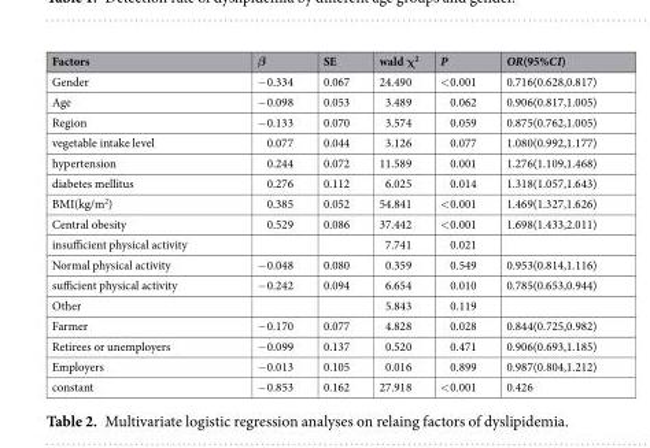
<table><thead><tr><td>Factors</td><td>β</td><td>SE</td><td>wald χ<sup>2</sup></td><td>P</td><td>OR(95%CI)</td></tr></thead><tbody><tr><td>Gender</td><td>−0.334</td><td>0.067</td><td>24.490</td><td>&lt;0.001</td><td>0.716(0.628,0.817)</td></tr><tr><td>Age</td><td>−0.098</td><td>0.053</td><td>3.489</td><td>0.062</td><td>0.906(0.817,1.005)</td></tr><tr><td>Region</td><td>−0.133</td><td>0.070</td><td>3.574</td><td>0.059</td><td>0.875(0.762,1.005)</td></tr><tr><td>vegetable intake level</td><td>0.077</td><td>0.044</td><td>3.126</td><td>0.077</td><td>1.080(0.992,1.177)</td></tr><tr><td>hypertension</td><td>0.244</td><td>0.072</td><td>11.589</td><td>0.001</td><td>1.276(1.109,1.468)</td></tr><tr><td>diabetes mellitus</td><td>0.276</td><td>0.112</td><td>6.025</td><td>0.014</td><td>1.318(1.057,1.643)</td></tr><tr><td>BMI(kg/m<sup>2</sup>)</td><td>0.385</td><td>0.052</td><td>54.841</td><td>&lt;0.001</td><td>1.469(1.327,1.626)</td></tr><tr><td>Central obesity</td><td>0.529</td><td>0.086</td><td>37.442</td><td>&lt;0.001</td><td>1.698(1.433,2.011)</td></tr><tr><td>insufficient physical activity</td><td></td><td></td><td>7.741</td><td>0.021</td><td></td></tr><tr><td>Normal physical activity</td><td>−0.048</td><td>0.080</td><td>0.359</td><td>0.549</td><td>0.953(0.814,1.116)</td></tr><tr><td>sufficient physical activity</td><td>−0.242</td><td>0.094</td><td>6.654</td><td>0.010</td><td>0.785(0.653,0.944)</td></tr><tr><td>Other</td><td></td><td></td><td>5.843</td><td>0.119</td><td></td></tr><tr><td>Farmer</td><td>−0.170</td><td>0.077</td><td>4.828</td><td>0.028</td><td>0.844(0.725,0.982)</td></tr><tr><td>Retirees or unemployers</td><td>−0.099</td><td>0.137</td><td>0.520</td><td>0.471</td><td>0.906(0.693,1.185)</td></tr><tr><td>Employers</td><td>−0.013</td><td>0.105</td><td>0.016</td><td>0.899</td><td>0.987(0.804,1.212)</td></tr><tr><td>constant</td><td>−0.853</td><td>0.162</td><td>27.918</td><td>&lt;0.001</td><td>0.426</td></tr></tbody></table>